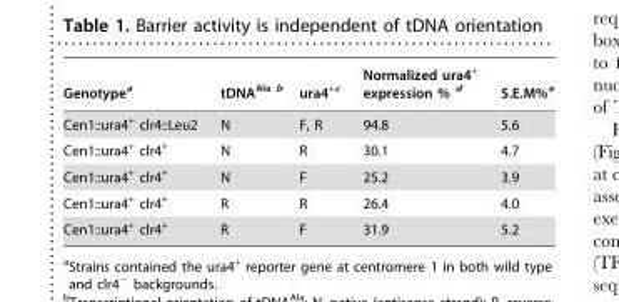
<table><thead><tr><td>Genotype<sup>a</sup></td><td>tDNA<sup>Ala</sup> b</td><td>ura4<sup>+</sup>c</td><td>Normalized ura4<sup>+</sup> expression % d</td><td>S.E.M%<sup>e</sup></td></tr></thead><tbody><tr><td>Cen1::ura4<sup>+</sup> clr4::Leu2</td><td>N</td><td>F, R</td><td>94.8</td><td>5.6</td></tr><tr><td>Cen1::ura4<sup>+</sup> clr4<sup>+</sup></td><td>N</td><td>R</td><td>30.1</td><td>4.7</td></tr><tr><td>Cen1::ura4<sup>+</sup> clr4<sup>+</sup></td><td>N</td><td>F</td><td>25.2</td><td>3.9</td></tr><tr><td>Cen1::ura4<sup>+</sup> clr4<sup>+</sup></td><td>R</td><td>R</td><td>26.4</td><td>4.0</td></tr><tr><td>Cen1::ura4<sup>+</sup> clr4<sup>+</sup></td><td>R</td><td>F</td><td>31.9</td><td>5.2</td></tr></tbody></table>